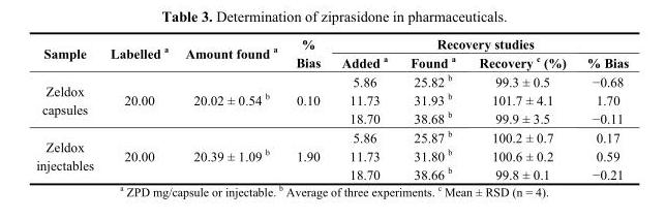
<table><thead><tr><td rowspan="2">Sample</td><td rowspan="2">Labelled <sup>a</sup></td><td rowspan="2">Amount found <sup>a</sup></td><td rowspan="2">% Bias</td><td colspan="4">Recovery studies</td></tr><tr><td>Added <sup>a</sup></td><td>Found <sup>a</sup></td><td>Recovery <sup>c</sup> (%)</td><td>% Bias</td></tr></thead><tbody><tr><td rowspan="3">Zeldox capsules</td><td rowspan="3">20.00</td><td rowspan="3">20.02 ± 0.54 <sup>b</sup></td><td rowspan="3">0.10</td><td>5.86</td><td>25.82 <sup>b</sup></td><td>99.3 ± 0.5</td><td>−0.68</td></tr><tr><td>11.73</td><td>31.93 <sup>b</sup></td><td>101.7 ± 4.1</td><td>1.70</td></tr><tr><td>18.70</td><td>38.68 <sup>b</sup></td><td>99.9 ± 3.5</td><td>−0.11</td></tr><tr><td rowspan="3">Zeldox injectables</td><td rowspan="3">20.00</td><td rowspan="3">20.39 ± 1.09 <sup>b</sup></td><td rowspan="3">1.90</td><td>5.86</td><td>25.87 <sup>b</sup></td><td>100.2 ± 0.7</td><td>0.17</td></tr><tr><td>11.73</td><td>31.80 <sup>b</sup></td><td>100.6 ± 0.2</td><td>0.59</td></tr><tr><td>18.70</td><td>38.66 <sup>b</sup></td><td>99.8 ± 0.1</td><td>−0.21</td></tr></tbody></table>